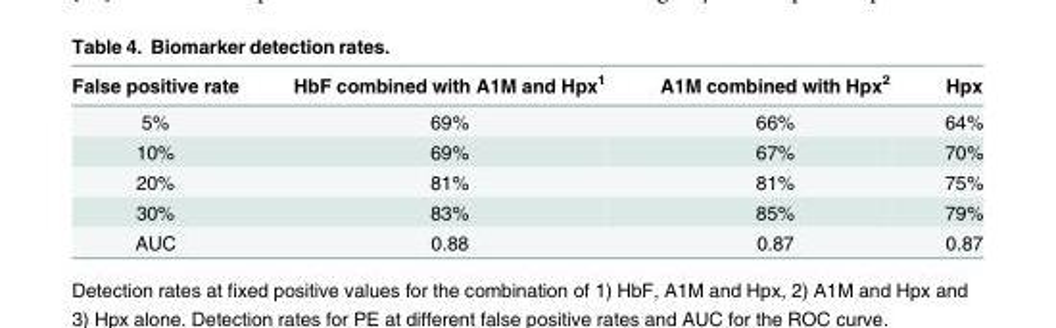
<table><thead><tr><td>False positive rate</td><td>HbF combined with A1M and Hpx<sup>1</sup></td><td>A1M combined with Hpx<sup>2</sup></td><td>Hpx</td></tr></thead><tbody><tr><td>5%</td><td>69%</td><td>66%</td><td>64%</td></tr><tr><td>10%</td><td>69%</td><td>67%</td><td>70%</td></tr><tr><td>20%</td><td>81%</td><td>81%</td><td>75%</td></tr><tr><td>30%</td><td>83%</td><td>85%</td><td>79%</td></tr><tr><td>AUC</td><td>0.88</td><td>0.87</td><td>0.87</td></tr></tbody></table>